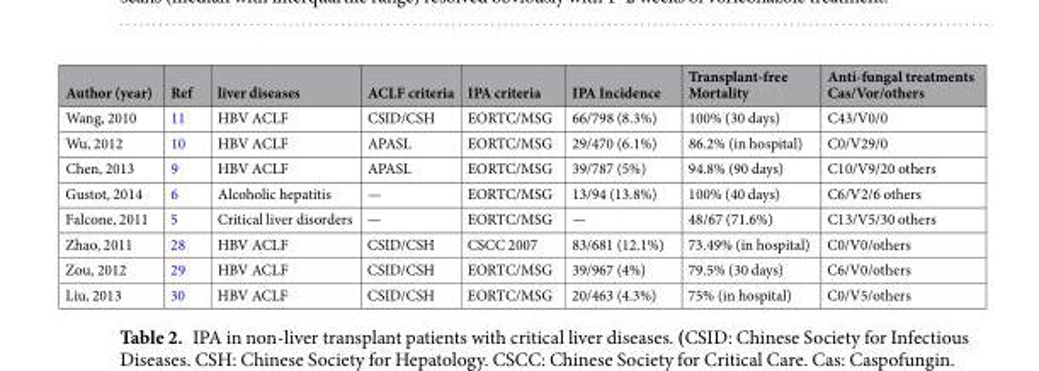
<table><thead><tr><td>Author (year)</td><td>Ref</td><td>liver diseases</td><td>ACLF criteria</td><td>IPA criteria</td><td>IPA Incidence</td><td>Transplant-free Mortality</td><td>Anti-fungal treatments Cas/Vor/others</td></tr></thead><tbody><tr><td>Wang, 2010</td><td>11</td><td>HBV ACLF</td><td>CSID/CSH</td><td>EORTC/MSG</td><td>66/798 (8.3%)</td><td>100% (30 days)</td><td>C43/V0/0</td></tr><tr><td>Wu, 2012</td><td>10</td><td>HBV ACLF</td><td>APASL</td><td>EORTC/MSG</td><td>29/470 (6.1%)</td><td>86.2% (in hospital)</td><td>C0/V29/0</td></tr><tr><td>Chen, 2013</td><td>9</td><td>HBV ACLF</td><td>APASL</td><td>EORTC/MSG</td><td>39/787 (5%)</td><td>94.8% (90 days)</td><td>C10/V9/20 others</td></tr><tr><td>Gustot, 2014</td><td>6</td><td>Alcoholic hepatitis</td><td>—</td><td>EORTC/MSG</td><td>13/94 (13.8%)</td><td>100% (40 days)</td><td>C6/V2/6 others</td></tr><tr><td>Falcone, 2011</td><td>5</td><td>Critical liver disorders</td><td>—</td><td>EORTC/MSG</td><td>—</td><td>48/67 (71.6%)</td><td>C13/V5/30 others</td></tr><tr><td>Zhao, 2011</td><td>28</td><td>HBV ACLF</td><td>CSID/CSH</td><td>CSCC 2007</td><td>83/681 (12.1%)</td><td>73.49% (in hospital)</td><td>C0/V0/others</td></tr><tr><td>Zou, 2012</td><td>29</td><td>HBV ACLF</td><td>CSID/CSH</td><td>EORTC/MSG</td><td>39/967 (4%)</td><td>79.5% (30 days)</td><td>C6/V0/others</td></tr><tr><td>Liu, 2013</td><td>30</td><td>HBV ACLF</td><td>CSID/CSH</td><td>EORTC/MSG</td><td>20/463 (4.3%)</td><td>75% (in hospital)</td><td>C0/V5/others</td></tr></tbody></table>